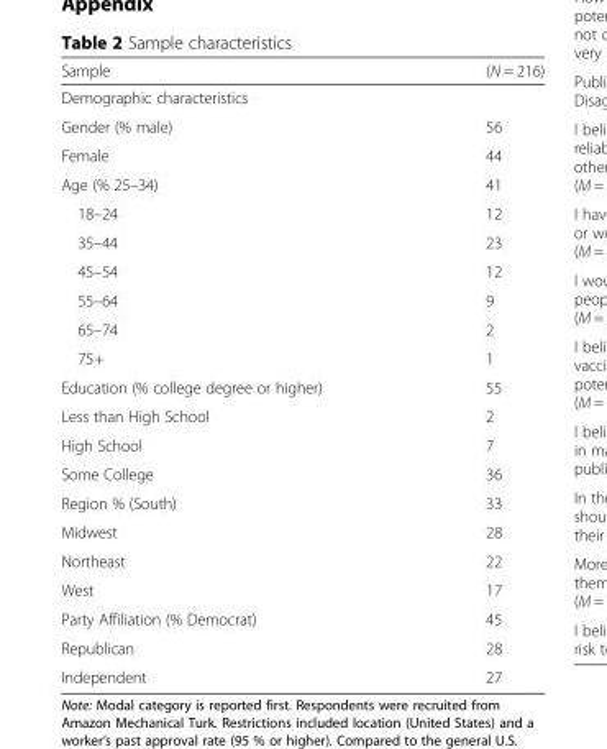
<table><thead><tr><td>Sample</td><td>(N = 216)</td></tr></thead><tbody><tr><td colspan="2">Demographic characteristics</td></tr><tr><td>Gender (% male)</td><td>56</td></tr><tr><td>Female</td><td>44</td></tr><tr><td>Age (% 25–34)</td><td>41</td></tr><tr><td>18–24</td><td>12</td></tr><tr><td>35–44</td><td>23</td></tr><tr><td>45–54</td><td>12</td></tr><tr><td>55–64</td><td>9</td></tr><tr><td>65–74</td><td>2</td></tr><tr><td>75+</td><td>1</td></tr><tr><td>Education (% college degree or higher)</td><td>55</td></tr><tr><td>Less than High School</td><td>2</td></tr><tr><td>High School</td><td>7</td></tr><tr><td>Some College</td><td>36</td></tr><tr><td>Region % (South)</td><td>33</td></tr><tr><td>Midwest</td><td>28</td></tr><tr><td>Northeast</td><td>22</td></tr><tr><td>West</td><td>17</td></tr><tr><td>Party Affiliation (% Democrat)</td><td>45</td></tr><tr><td>Republican</td><td>28</td></tr><tr><td>Independent</td><td>27</td></tr></tbody></table>